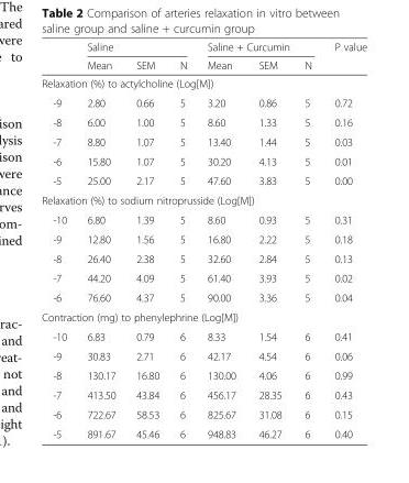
<table><thead><tr><td rowspan="2"></td><td colspan="3">Saline</td><td colspan="3">Saline + Curcumin</td><td rowspan="2">P value</td></tr><tr><td>Mean</td><td>SEM</td><td>N</td><td>Mean</td><td>SEM</td><td>N</td></tr></thead><tbody><tr><td colspan="8">Relaxation (%) to actylcholine (Log[M])</td></tr><tr><td>-9</td><td>2.80</td><td>0.66</td><td>5</td><td>3.20</td><td>0.86</td><td>5</td><td>0.72</td></tr><tr><td>-8</td><td>6.00</td><td>1.00</td><td>5</td><td>8.60</td><td>1.33</td><td>5</td><td>0.16</td></tr><tr><td>-7</td><td>8.80</td><td>1.07</td><td>5</td><td>13.40</td><td>1.44</td><td>5</td><td>0.03</td></tr><tr><td>-6</td><td>15.80</td><td>1.07</td><td>5</td><td>30.20</td><td>4.13</td><td>5</td><td>0.01</td></tr><tr><td>-5</td><td>25.00</td><td>2.17</td><td>5</td><td>47.60</td><td>3.83</td><td>5</td><td>0.00</td></tr><tr><td colspan="8">Relaxation (%) to sodium nitroprusside (Log[M])</td></tr><tr><td>-10</td><td>6.80</td><td>1.39</td><td>5</td><td>8.60</td><td>0.93</td><td>5</td><td>0.31</td></tr><tr><td>-9</td><td>12.80</td><td>1.56</td><td>5</td><td>16.80</td><td>2.22</td><td>5</td><td>0.18</td></tr><tr><td>-8</td><td>26.40</td><td>2.38</td><td>5</td><td>32.60</td><td>2.84</td><td>5</td><td>0.13</td></tr><tr><td>-7</td><td>44.20</td><td>4.09</td><td>5</td><td>61.40</td><td>3.93</td><td>5</td><td>0.02</td></tr><tr><td>-6</td><td>76.60</td><td>4.37</td><td>5</td><td>90.00</td><td>3.36</td><td>5</td><td>0.04</td></tr><tr><td colspan="8">Contraction (mg) to phenylephrine (Log[M])</td></tr><tr><td>-10</td><td>6.83</td><td>0.79</td><td>6</td><td>8.33</td><td>1.54</td><td>6</td><td>0.41</td></tr><tr><td>-9</td><td>30.83</td><td>2.71</td><td>6</td><td>42.17</td><td>4.54</td><td>6</td><td>0.06</td></tr><tr><td>-8</td><td>130.17</td><td>16.80</td><td>6</td><td>130.00</td><td>4.06</td><td>6</td><td>0.99</td></tr><tr><td>-7</td><td>413.50</td><td>43.84</td><td>6</td><td>456.17</td><td>28.35</td><td>6</td><td>0.43</td></tr><tr><td>-6</td><td>722.67</td><td>58.53</td><td>6</td><td>825.67</td><td>31.08</td><td>6</td><td>0.15</td></tr><tr><td>-5</td><td>891.67</td><td>45.46</td><td>6</td><td>948.83</td><td>46.27</td><td>6</td><td>0.40</td></tr></tbody></table>